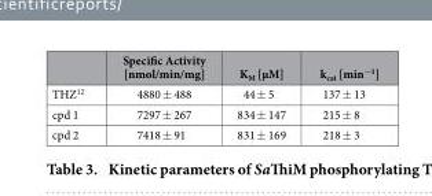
<table><thead><tr><td></td><td>Specific Activity [nmol/min/mg]</td><td>K<sub>M</sub> [μM]</td><td>k<sub>cat</sub> [min<sup>−1</sup>]</td></tr></thead><tbody><tr><td>THZ<sup>12</sup></td><td>4880 ± 488</td><td>44 ± 5</td><td>137 ± 13</td></tr><tr><td>cpd 1</td><td>7297 ± 267</td><td>834 ± 147</td><td>215 ± 8</td></tr><tr><td>cpd 2</td><td>7418 ± 91</td><td>831 ± 169</td><td>218 ± 3</td></tr></tbody></table>